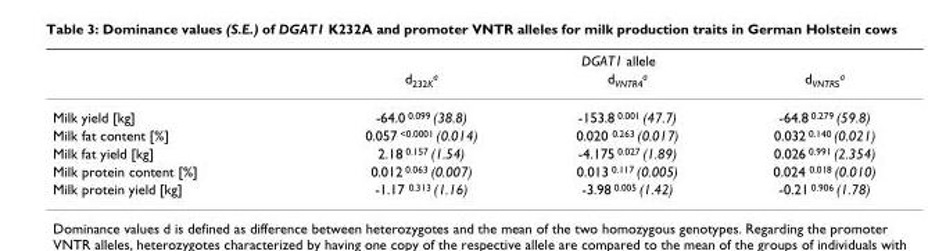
<table><thead><tr><td rowspan="2"></td><td colspan="3">DGAT1 allele</td></tr><tr><td>d<sub>232K</sub><sup>a</sup></td><td>d<sub>VNTR4</sub><sup>a</sup></td><td>d<sub>VNTR5</sub><sup>a</sup></td></tr></thead><tbody><tr><td>Milk yield [kg]</td><td>-64.0 <sup>0.099</sup> (38.8)</td><td>-153.8 <sup>0.001</sup> (47.7)</td><td>-64.8 <sup>0.279</sup> (59.8)</td></tr><tr><td>Milk fat content [%]</td><td>0.057 <sup>&lt;0.0001</sup> (0.014)</td><td>0.020 <sup>0.263</sup> (0.017)</td><td>0.032 <sup>0.140</sup> (0.021)</td></tr><tr><td>Milk fat yield [kg]</td><td>2.18 <sup>0.157</sup> (1.54)</td><td>-4.175 <sup>0.027</sup> (1.89)</td><td>0.026 <sup>0.991</sup> (2.354)</td></tr><tr><td>Milk protein content [%]</td><td>0.012 <sup>0.063</sup> (0.007)</td><td>0.013 <sup>0.117</sup> (0.005)</td><td>0.024 <sup>0.018</sup> (0.010)</td></tr><tr><td>Milk protein yield [kg]</td><td>-1.17 <sup>0.313</sup> (1.16)</td><td>-3.98 <sup>0.005</sup> (1.42)</td><td>-0.21 <sup>0.906</sup> (1.78)</td></tr></tbody></table>